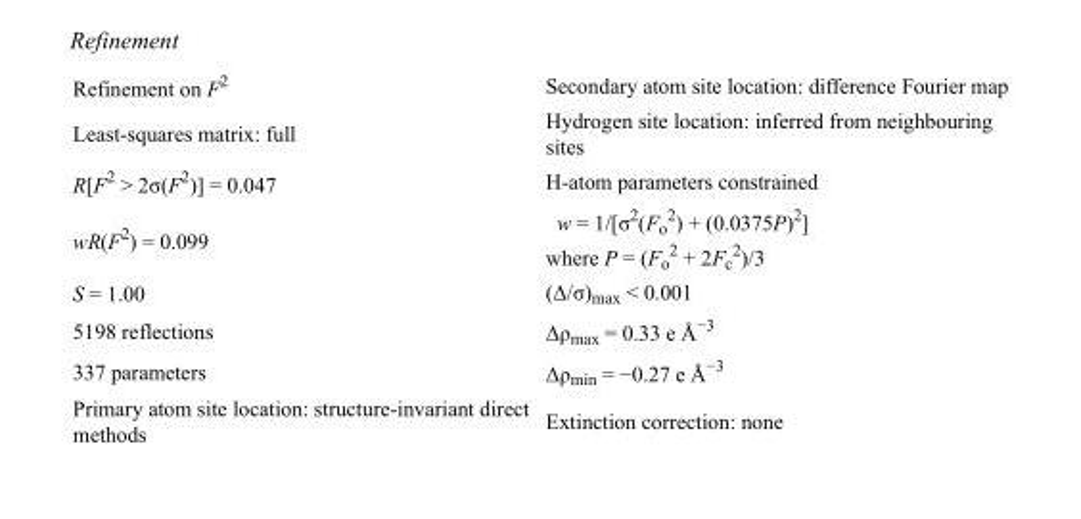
<table><tbody><tr><td>Refinement on F2</td><td>Secondary atom site location: difference Fourier map</td></tr><tr><td>Least-squares matrix: full</td><td>Hydrogen site location: inferred from neighbouring sites</td></tr><tr><td>R[F2 &gt; 2σ(F2)] = 0.047</td><td>H-atom parameters constrained</td></tr><tr><td>wR(F2) = 0.099</td><td>w = 1/[σ2(Fo 2) + (0.0375P)2] where P = (Fo 2 + 2Fc 2)/3</td></tr><tr><td>S = 1.00</td><td>(Δ/σ)max &lt; 0.001</td></tr><tr><td>5198 reflections</td><td>Δρmax = 0.33 e Å−3</td></tr><tr><td>337 parameters</td><td>Δρmin = −0.27 e Å−3</td></tr><tr><td>Primary atom site location: structure-invariant direct methods</td><td>Extinction correction: none</td></tr></tbody></table>